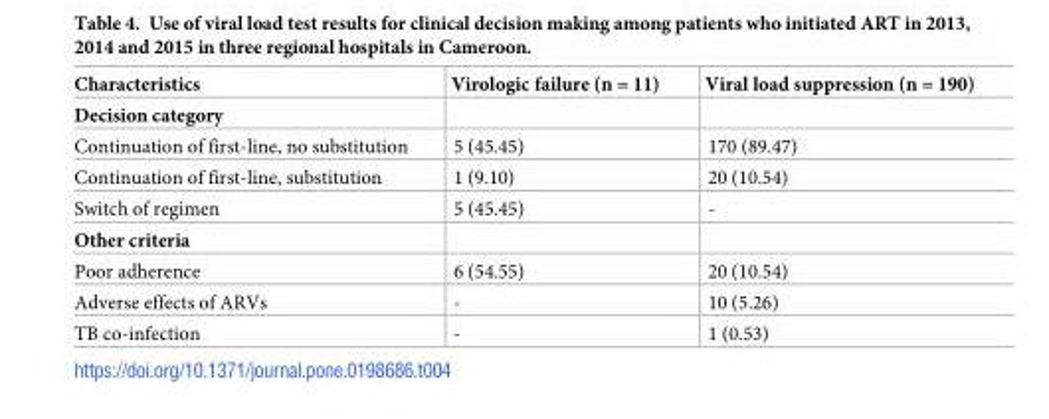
<table><thead><tr><td>Characteristics</td><td>Virologic failure (n = 11)</td><td>Viral load suppression (n = 190)</td></tr></thead><tbody><tr><td colspan="3">Decision category</td></tr><tr><td>Continuation of first-line, no substitution</td><td>5 (45.45)</td><td>170 (89.47)</td></tr><tr><td>Continuation of first-line, substitution</td><td>1 (9.10)</td><td>20 (10.54)</td></tr><tr><td>Switch of regimen</td><td>5 (45.45)</td><td>-</td></tr><tr><td colspan="3">Other criteria</td></tr><tr><td>Poor adherence</td><td>6 (54.55)</td><td>20 (10.54)</td></tr><tr><td>Adverse effects of ARVs</td><td>-</td><td>10 (5.26)</td></tr><tr><td>TB co-infection</td><td>-</td><td>1 (0.53)</td></tr></tbody></table>